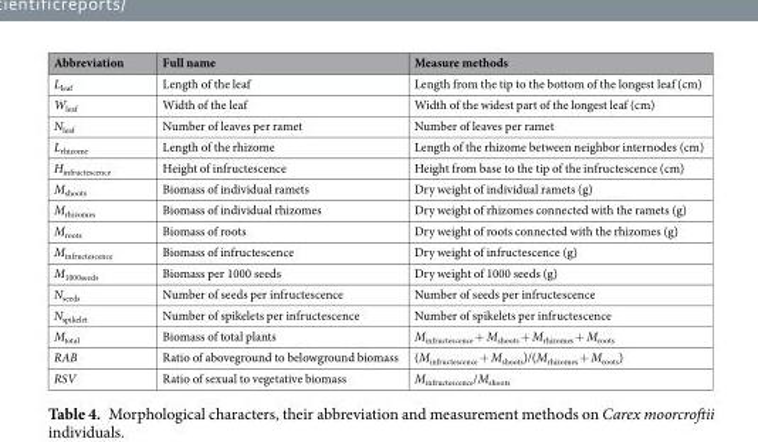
<table><thead><tr><td>Abbreviation</td><td>Full name</td><td>Measure methods</td></tr></thead><tbody><tr><td>L<sub>leaf</sub></td><td>Length of the leaf</td><td>Length from the tip to the bottom of the longest leaf (cm)</td></tr><tr><td>W<sub>leaf</sub></td><td>Width of the leaf</td><td>Width of the widest part of the longest leaf (cm)</td></tr><tr><td>N<sub>leaf</sub></td><td>Number of leaves per ramet</td><td>Number of leaves per ramet</td></tr><tr><td>L<sub>rhizome</sub></td><td>Length of the rhizome</td><td>Length of the rhizome between neighbor internodes (cm)</td></tr><tr><td>H<sub>infructescence</sub></td><td>Height of infructescence</td><td>Height from base to the tip of the infructescence (cm)</td></tr><tr><td>M<sub>shoots</sub></td><td>Biomass of individual ramets</td><td>Dry weight of individual ramets (g)</td></tr><tr><td>M<sub>rhizomes</sub></td><td>Biomass of individual rhizomes</td><td>Dry weight of rhizomes connected with the ramets (g)</td></tr><tr><td>M<sub>roots</sub></td><td>Biomass of roots</td><td>Dry weight of roots connected with the rhizomes (g)</td></tr><tr><td>M<sub>infructescence</sub></td><td>Biomass of infructescence</td><td>Dry weight of infructescence (g)</td></tr><tr><td>M<sub>1000seeds</sub></td><td>Biomass per 1000 seeds</td><td>Dry weight of 1000 seeds (g)</td></tr><tr><td>N<sub>seeds</sub></td><td>Number of seeds per infructescence</td><td>Number of seeds per infructescence</td></tr><tr><td>N<sub>spikelet</sub></td><td>Number of spikelets per infructescence</td><td>Number of spikelets per infructescence</td></tr><tr><td>M<sub>total</sub></td><td>Biomass of total plants</td><td>M<sub>infructescence</sub> + M<sub>shoots</sub> + M<sub>rhizomes</sub> + M<sub>roots</sub></td></tr><tr><td>RAB</td><td>Ratio of aboveground to belowground biomass</td><td>(M<sub>infructescence</sub> + M<sub>shoots</sub>)/(M<sub>rhizomes</sub> + M<sub>roots</sub>)</td></tr><tr><td>RSV</td><td>Ratio of sexual to vegetative biomass</td><td>M<sub>infructescence</sub>/M<sub>shoots</sub></td></tr></tbody></table>